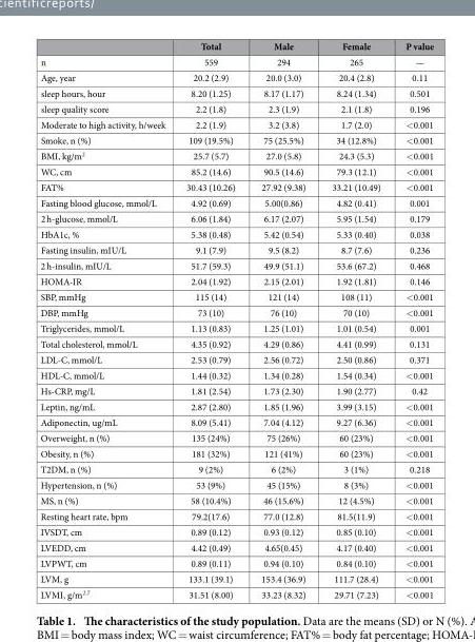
<table><thead><tr><td></td><td>Total</td><td>Male</td><td>Female</td><td>P value</td></tr></thead><tbody><tr><td>n</td><td>559</td><td>294</td><td>265</td><td>—</td></tr><tr><td>Age, year</td><td>20.2 (2.9)</td><td>20.0 (3.0)</td><td>20.4 (2.8)</td><td>0.11</td></tr><tr><td>sleep hours, hour</td><td>8.20 (1.25)</td><td>8.17 (1.17)</td><td>8.24 (1.34)</td><td>0.501</td></tr><tr><td>sleep quality score</td><td>2.2 (1.8)</td><td>2.3 (1.9)</td><td>2.1 (1.8)</td><td>0.196</td></tr><tr><td>Moderate to high activity, h/week</td><td>2.2 (1.9)</td><td>3.2 (3.8)</td><td>1.7 (2.0)</td><td>&lt; 0.001</td></tr><tr><td>Smoke, n (%)</td><td>109 (19.5%)</td><td>75 (25.5%)</td><td>34 (12.8%)</td><td>&lt; 0.001</td></tr><tr><td>BMI, kg/m<sup>2</sup></td><td>25.7 (5.7)</td><td>27.0 (5.8)</td><td>24.3 (5.3)</td><td>&lt; 0.001</td></tr><tr><td>WC, cm</td><td>85.2 (14.6)</td><td>90.5 (14.6)</td><td>79.3 (12.1)</td><td>&lt; 0.001</td></tr><tr><td>FAT%</td><td>30.43 (10.26)</td><td>27.92 (9.38)</td><td>33.21 (10.49)</td><td>&lt; 0.001</td></tr><tr><td>Fasting blood glucose, mmol/L</td><td>4.92 (0.69)</td><td>5.00(0.86)</td><td>4.82 (0.41)</td><td>0.001</td></tr><tr><td>2 h-glucose, mmol/L</td><td>6.06 (1.84)</td><td>6.17 (2.07)</td><td>5.95 (1.54)</td><td>0.179</td></tr><tr><td>HbA1c, %</td><td>5.38 (0.48)</td><td>5.42 (0.54)</td><td>5.33 (0.40)</td><td>0.038</td></tr><tr><td>Fasting insulin, mIU/L</td><td>9.1 (7.9)</td><td>9.5 (8.2)</td><td>8.7 (7.6)</td><td>0.236</td></tr><tr><td>2 h-insulin, mIU/L</td><td>51.7 (59.3)</td><td>49.9 (51.1)</td><td>53.6 (67.2)</td><td>0.468</td></tr><tr><td>HOMA-IR</td><td>2.04 (1.92)</td><td>2.15 (2.01)</td><td>1.92 (1.81)</td><td>0.146</td></tr><tr><td>SBP, mmHg</td><td>115 (14)</td><td>121 (14)</td><td>108 (11)</td><td>&lt; 0.001</td></tr><tr><td>DBP, mmHg</td><td>73 (10)</td><td>76 (10)</td><td>70 (10)</td><td>&lt; 0.001</td></tr><tr><td>Triglycerides, mmol/L</td><td>1.13 (0.83)</td><td>1.25 (1.01)</td><td>1.01 (0.54)</td><td>0.001</td></tr><tr><td>Total cholesterol, mmol/L</td><td>4.35 (0.92)</td><td>4.29 (0.86)</td><td>4.41 (0.99)</td><td>0.131</td></tr><tr><td>LDL-C, mmol/L</td><td>2.53 (0.79)</td><td>2.56 (0.72)</td><td>2.50 (0.86)</td><td>0.371</td></tr><tr><td>HDL-C, mmol/L</td><td>1.44 (0.32)</td><td>1.34 (0.28)</td><td>1.54 (0.34)</td><td>&lt; 0.001</td></tr><tr><td>Hs-CRP, mg/L</td><td>1.81 (2.54)</td><td>1.73 (2.30)</td><td>1.90 (2.77)</td><td>0.42</td></tr><tr><td>Leptin, ng/mL</td><td>2.87 (2.80)</td><td>1.85 (1.96)</td><td>3.99 (3.15)</td><td>&lt; 0.001</td></tr><tr><td>Adiponectin, ug/mL</td><td>8.09 (5.41)</td><td>7.04 (4.12)</td><td>9.27 (6.36)</td><td>&lt; 0.001</td></tr><tr><td>Overweight, n (%)</td><td>135 (24%)</td><td>75 (26%)</td><td>60 (23%)</td><td>&lt; 0.001</td></tr><tr><td>Obesity, n (%)</td><td>181 (32%)</td><td>121 (41%)</td><td>60 (23%)</td><td>&lt; 0.001</td></tr><tr><td>T2DM, n (%)</td><td>9 (2%)</td><td>6 (2%)</td><td>3 (1%)</td><td>0.218</td></tr><tr><td>Hypertension, n (%)</td><td>53 (9%)</td><td>45 (15%)</td><td>8 (3%)</td><td>&lt; 0.001</td></tr><tr><td>MS, n (%)</td><td>58 (10.4%)</td><td>46 (15.6%)</td><td>12 (4.5%)</td><td>&lt; 0.001</td></tr><tr><td>Resting heart rate, bpm</td><td>79.2(17.6)</td><td>77.0 (12.8)</td><td>81.5(11.9)</td><td>&lt; 0.001</td></tr><tr><td>IVSDT, cm</td><td>0.89 (0.12)</td><td>0.93 (0.12)</td><td>0.85 (0.10)</td><td>&lt; 0.001</td></tr><tr><td>LVEDD, cm</td><td>4.42 (0.49)</td><td>4.65(0.45)</td><td>4.17 (0.40)</td><td>&lt; 0.001</td></tr><tr><td>LVPWT, cm</td><td>0.89 (0.11)</td><td>0.94 (0.10)</td><td>0.84 (0.10)</td><td>&lt; 0.001</td></tr><tr><td>LVM, g</td><td>133.1 (39.1)</td><td>153.4 (36.9)</td><td>111.7 (28.4)</td><td>&lt; 0.001</td></tr><tr><td>LVMI, g/m<sup>2.7</sup></td><td>31.51 (8.00)</td><td>33.23 (8.32)</td><td>29.71 (7.23)</td><td>&lt; 0.001</td></tr></tbody></table>